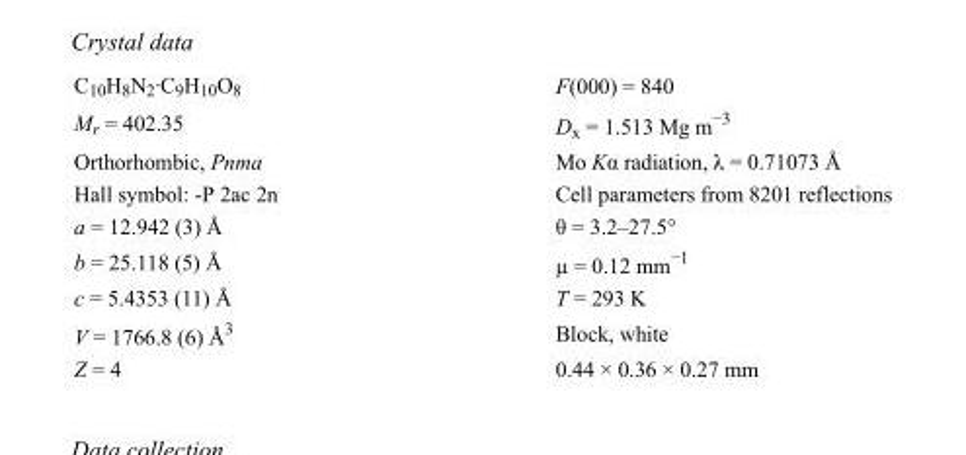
<table><tbody><tr><td>C<sub>10</sub>H<sub>8</sub>N<sub>2</sub>·C<sub>9</sub>H<sub>10</sub>O<sub>8</sub></td><td>F(000) = 840</td></tr><tr><td>M<sub>r</sub> = 402.35</td><td>D<sub>x</sub> = 1.513 Mg m<sup>−3</sup></td></tr><tr><td>Orthorhombic, Pnma</td><td>Mo Kα radiation, λ = 0.71073 Å</td></tr><tr><td>Hall symbol: -P 2ac 2n</td><td>Cell parameters from 8201 reflections</td></tr><tr><td>a = 12.942 (3) Å</td><td>θ = 3.2–27.5°</td></tr><tr><td>b = 25.118 (5) Å</td><td>µ = 0.12 mm<sup>−1</sup></td></tr><tr><td>c = 5.4353 (11) Å</td><td>T = 293 K</td></tr><tr><td>V = 1766.8 (6) Å<sup>3</sup></td><td>Block, white</td></tr><tr><td>Z = 4</td><td>0.44 × 0.36 × 0.27 mm</td></tr></tbody></table>